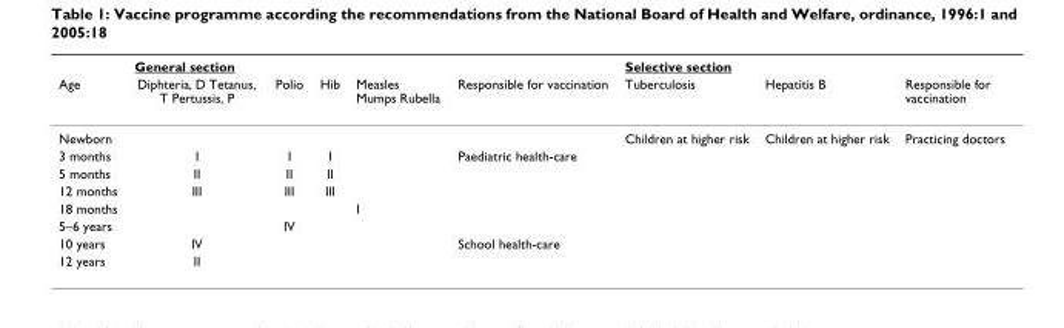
<table><thead><tr><td rowspan="2">Age</td><td colspan="5">General section</td><td colspan="3">Selective section</td></tr><tr><td>Diphteria, D Tetanus, T Pertussis, P</td><td>Polio</td><td>Hib</td><td>Measles Mumps Rubella</td><td>Responsible for vaccination</td><td>Tuberculosis</td><td>Hepatitis B</td><td>Responsible for vaccination</td></tr></thead><tbody><tr><td>Newborn</td><td></td><td></td><td></td><td></td><td></td><td>Children at higher risk</td><td>Children at higher risk</td><td>Practicing doctors</td></tr><tr><td>3 months</td><td>I</td><td>I</td><td>I</td><td></td><td>Paediatric health-care</td><td></td><td></td><td></td></tr><tr><td>5 months</td><td>II</td><td>II</td><td>II</td><td></td><td></td><td></td><td></td><td></td></tr><tr><td>12 months</td><td>III</td><td>III</td><td>III</td><td></td><td></td><td></td><td></td><td></td></tr><tr><td>18 months</td><td></td><td></td><td></td><td>I</td><td></td><td></td><td></td><td></td></tr><tr><td>5–6 years</td><td></td><td>IV</td><td></td><td></td><td></td><td></td><td></td><td></td></tr><tr><td>10 years</td><td>IV</td><td></td><td></td><td></td><td>School health-care</td><td></td><td></td><td></td></tr><tr><td>12 years</td><td>II</td><td></td><td></td><td></td><td></td><td></td><td></td><td></td></tr></tbody></table>